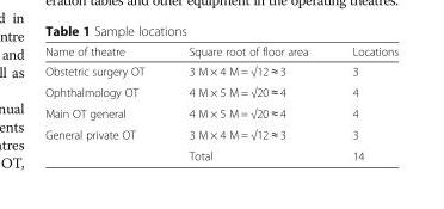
<table><thead><tr><td>Name of theatre</td><td>Square root of floor area</td><td>Locations</td></tr></thead><tbody><tr><td>Obstetric surgery OT</td><td>3 M × 4 M = √12 ≈ 3</td><td>3</td></tr><tr><td>Ophthalmology OT</td><td>4 M × 5 M = √20 ≈ 4</td><td>4</td></tr><tr><td>Main OT general</td><td>4 M × 5 M = √20 ≈ 4</td><td>4</td></tr><tr><td rowspan="2">General private OT</td><td>3 M × 4 M = √12 ≈ 3</td><td>3</td></tr><tr><td>Total</td><td>14</td></tr></tbody></table>